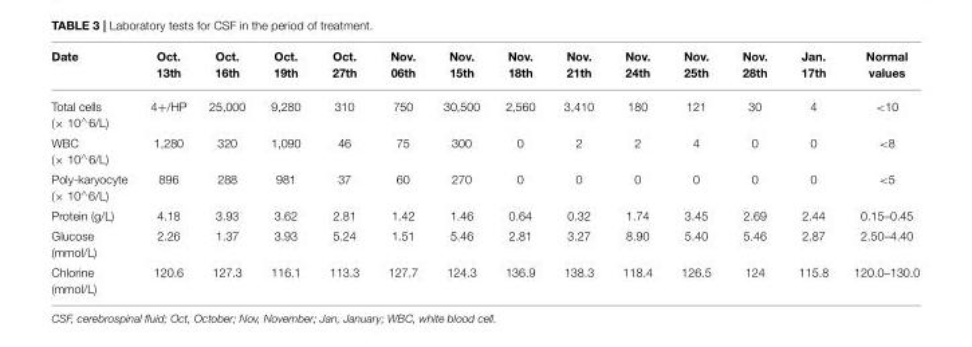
<table><thead><tr><td>Date</td><td>Oct. 13th</td><td>Oct. 16th</td><td>Oct. 19th</td><td>Oct. 27th</td><td>Nov. 06th</td><td>Nov. 15th</td><td>Nov. 18th</td><td>Nov. 21th</td><td>Nov. 24th</td><td>Nov. 25th</td><td>Nov. 28th</td><td>Jan. 17th</td><td>Normal values</td></tr></thead><tbody><tr><td>Total cells (× 10<sup>∧</sup>6/L)</td><td>4+/HP</td><td>25,000</td><td>9,280</td><td>310</td><td>750</td><td>30,500</td><td>2,560</td><td>3,410</td><td>180</td><td>121</td><td>30</td><td>4</td><td>&lt;10</td></tr><tr><td>WBC (× 10<sup>∧</sup>6/L)</td><td>1,280</td><td>320</td><td>1,090</td><td>46</td><td>75</td><td>300</td><td>0</td><td>2</td><td>2</td><td>4</td><td>0</td><td>0</td><td>&lt;8</td></tr><tr><td>Poly-karyocyte (× 10<sup>∧</sup>6/L)</td><td>896</td><td>288</td><td>981</td><td>37</td><td>60</td><td>270</td><td>0</td><td>0</td><td>0</td><td>0</td><td>0</td><td>0</td><td>&lt;5</td></tr><tr><td>Protein (g/L)</td><td>4.18</td><td>3.93</td><td>3.62</td><td>2.81</td><td>1.42</td><td>1.46</td><td>0.64</td><td>0.32</td><td>1.74</td><td>3.45</td><td>2.69</td><td>2.44</td><td>0.15–0.45</td></tr><tr><td>Glucose (mmol/L)</td><td>2.26</td><td>1.37</td><td>3.93</td><td>5.24</td><td>1.51</td><td>5.46</td><td>2.81</td><td>3.27</td><td>8.90</td><td>5.40</td><td>5.46</td><td>2.87</td><td>2.50–4.40</td></tr><tr><td>Chlorine (mmol/L)</td><td>120.6</td><td>127.3</td><td>116.1</td><td>113.3</td><td>127.7</td><td>124.3</td><td>136.9</td><td>138.3</td><td>118.4</td><td>126.5</td><td>124</td><td>115.8</td><td>120.0–130.0</td></tr></tbody></table>